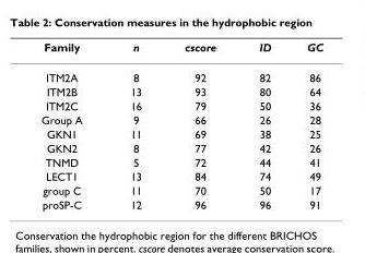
<table><thead><tr><td>Family</td><td>n</td><td>cscore</td><td>ID</td><td>GC</td></tr></thead><tbody><tr><td>ITM2A</td><td>8</td><td>92</td><td>82</td><td>86</td></tr><tr><td>ITM2B</td><td>13</td><td>93</td><td>80</td><td>64</td></tr><tr><td>ITM2C</td><td>16</td><td>79</td><td>50</td><td>36</td></tr><tr><td>Group A</td><td>9</td><td>66</td><td>26</td><td>28</td></tr><tr><td>GKN1</td><td>11</td><td>69</td><td>38</td><td>25</td></tr><tr><td>GKN2</td><td>8</td><td>77</td><td>42</td><td>26</td></tr><tr><td>TNMD</td><td>5</td><td>72</td><td>44</td><td>41</td></tr><tr><td>LECT1</td><td>13</td><td>84</td><td>74</td><td>49</td></tr><tr><td>group C</td><td>11</td><td>70</td><td>50</td><td>17</td></tr><tr><td>proSP-C</td><td>12</td><td>96</td><td>96</td><td>91</td></tr></tbody></table>